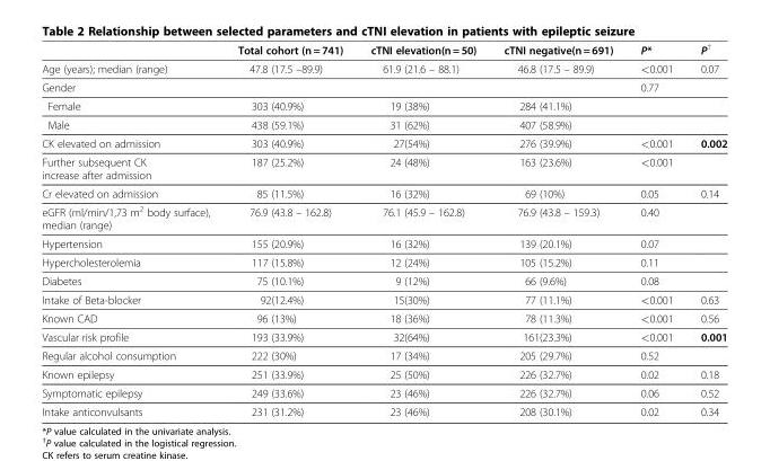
<table><thead><tr><td></td><td>Total cohort (n = 741)</td><td>cTNI elevation(n = 50)</td><td>cTNI negative(n = 691)</td><td>P*</td><td>P<sup>†</sup></td></tr></thead><tbody><tr><td>Age (years); median (range)</td><td>47.8 (17.5 –89.9)</td><td>61.9 (21.6 – 88.1)</td><td>46.8 (17.5 – 89.9)</td><td>&lt;0.001</td><td>0.07</td></tr><tr><td>Gender</td><td></td><td></td><td></td><td>0.77</td><td></td></tr><tr><td>Female</td><td>303 (40.9%)</td><td>19 (38%)</td><td>284 (41.1%)</td><td></td><td></td></tr><tr><td>Male</td><td>438 (59.1%)</td><td>31 (62%)</td><td>407 (58.9%)</td><td></td><td></td></tr><tr><td>CK elevated on admission</td><td>303 (40.9%)</td><td>27(54%)</td><td>276 (39.9%)</td><td>&lt;0.001</td><td>0.002</td></tr><tr><td>Further subsequent CK increase after admission</td><td>187 (25.2%)</td><td>24 (48%)</td><td>163 (23.6%)</td><td>&lt;0.001</td><td></td></tr><tr><td>Cr elevated on admission</td><td>85 (11.5%)</td><td>16 (32%)</td><td>69 (10%)</td><td>0.05</td><td>0.14</td></tr><tr><td>eGFR (ml/min/1,73 m<sup>2</sup> body surface), median (range)</td><td>76.9 (43.8 – 162.8)</td><td>76.1 (45.9 – 162.8)</td><td>76.9 (43.8 – 159.3)</td><td>0.40</td><td></td></tr><tr><td>Hypertension</td><td>155 (20.9%)</td><td>16 (32%)</td><td>139 (20.1%)</td><td>0.07</td><td></td></tr><tr><td>Hypercholesterolemia</td><td>117 (15.8%)</td><td>12 (24%)</td><td>105 (15.2%)</td><td>0.11</td><td></td></tr><tr><td>Diabetes</td><td>75 (10.1%)</td><td>9 (12%)</td><td>66 (9.6%)</td><td>0.08</td><td></td></tr><tr><td>Intake of Beta-blocker</td><td>92(12.4%)</td><td>15(30%)</td><td>77 (11.1%)</td><td>&lt;0.001</td><td>0.63</td></tr><tr><td>Known CAD</td><td>96 (13%)</td><td>18 (36%)</td><td>78 (11.3%)</td><td>&lt;0.001</td><td>0.56</td></tr><tr><td>Vascular risk profile</td><td>193 (33.9%)</td><td>32(64%)</td><td>161(23.3%)</td><td>&lt;0.001</td><td>0.001</td></tr><tr><td>Regular alcohol consumption</td><td>222 (30%)</td><td>17 (34%)</td><td>205 (29.7%)</td><td>0.52</td><td></td></tr><tr><td>Known epilepsy</td><td>251 (33.9%)</td><td>25 (50%)</td><td>226 (32.7%)</td><td>0.02</td><td>0.18</td></tr><tr><td>Symptomatic epilepsy</td><td>249 (33.6%)</td><td>23 (46%)</td><td>226 (32.7%)</td><td>0.06</td><td>0.52</td></tr><tr><td>Intake anticonvulsants</td><td>231 (31.2%)</td><td>23 (46%)</td><td>208 (30.1%)</td><td>0.02</td><td>0.34</td></tr></tbody></table>